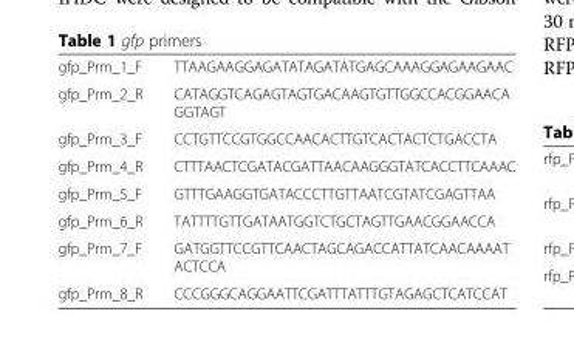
<table><tbody><tr><td>gfp_Prm_1_F</td><td>TTAAGAAGGAGATATAGATATGAGCAAAGGAGAAGAAC</td></tr><tr><td>gfp_Prm_2_R</td><td>CATAGGTCAGAGTAGTGACAAGTGTTGGCCACGGAACA GGTAGT</td></tr><tr><td>gfp_Prm_3_F</td><td>CCTGTTCCGTGGCCAACACTTGTCACTACTCTGACCTA</td></tr><tr><td>gfp_Prm_4_R</td><td>CTTTAACTCGATACGATTAACAAGGGTATCACCTTCAAAC</td></tr><tr><td>gfp_Prm_5_F</td><td>GTTTGAAGGTGATACCCTTGTTAATCGTATCGAGTTAA</td></tr><tr><td>gfp_Prm_6_R</td><td>TATTTTGTTGATAATGGTCTGCTAGTTGAACGGAACCA</td></tr><tr><td>gfp_Prm_7_F</td><td>GATGGTTCCGTTCAACTAGCAGACCATTATCAACAAAAT ACTCCA</td></tr><tr><td>gfp_Prm_8_R</td><td>CCCGGGCAGGAATTCGATTTATTTGTAGAGCTCATCCAT</td></tr></tbody></table>